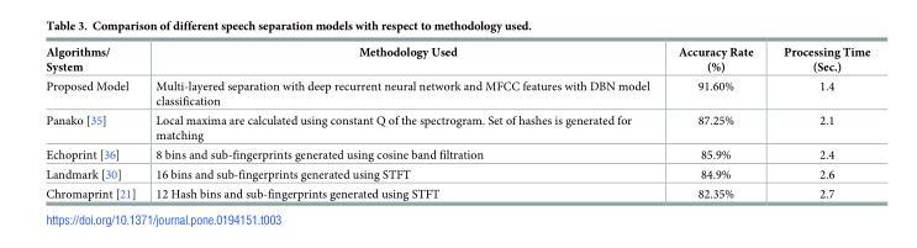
<table><thead><tr><td>Algorithms/ System</td><td>Methodology Used</td><td>Accuracy Rate (%)</td><td>Processing Time (Sec.)</td></tr></thead><tbody><tr><td>Proposed Model</td><td>Multi-layered separation with deep recurrent neural network and MFCC features with DBN model classification</td><td>91.60%</td><td>1.4</td></tr><tr><td>Panako [35]</td><td>Local maxima are calculated using constant Q of the spectrogram. Set of hashes is generated for matching</td><td>87.25%</td><td>2.1</td></tr><tr><td>Echoprint [36]</td><td>8 bins and sub-fingerprints generated using cosine band filtration</td><td>85.9%</td><td>2.4</td></tr><tr><td>Landmark [30]</td><td>16 bins and sub-fingerprints generated using STFT</td><td>84.9%</td><td>2.6</td></tr><tr><td>Chromaprint [21]</td><td>12 Hash bins and sub-fingerprints generated using STFT</td><td>82.35%</td><td>2.7</td></tr></tbody></table>